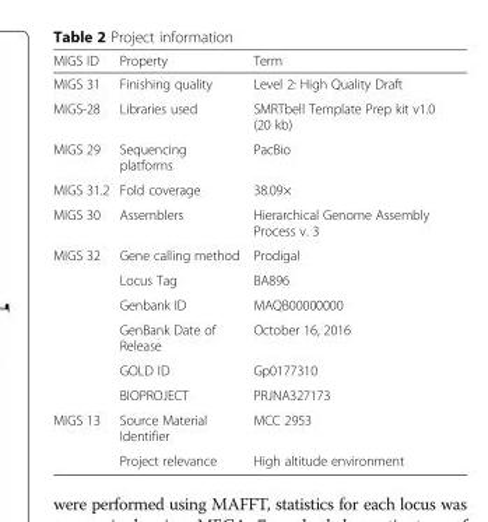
<table><thead><tr><td>MIGS ID</td><td>Property</td><td>Term</td></tr></thead><tbody><tr><td>MIGS 31</td><td>Finishing quality</td><td>Level 2: High Quality Draft</td></tr><tr><td>MIGS-28</td><td>Libraries used</td><td>SMRTbell Template Prep kit v1.0 (20 kb)</td></tr><tr><td>MIGS 29</td><td>Sequencing platforms</td><td>PacBio</td></tr><tr><td>MIGS 31.2</td><td>Fold coverage</td><td>38.09×</td></tr><tr><td>MIGS 30</td><td>Assemblers</td><td>Hierarchical Genome Assembly Process v. 3</td></tr><tr><td rowspan="6">MIGS 32</td><td>Gene calling method</td><td>Prodigal</td></tr><tr><td>Locus Tag</td><td>BA896</td></tr><tr><td>Genbank ID</td><td>MAQB00000000</td></tr><tr><td>GenBank Date of Release</td><td>October 16, 2016</td></tr><tr><td>GOLD ID</td><td>Gp0177310</td></tr><tr><td>BIOPROJECT</td><td>PRJNA327173</td></tr><tr><td rowspan="2">MIGS 13</td><td>Source Material Identifier</td><td>MCC 2953</td></tr><tr><td>Project relevance</td><td>High altitude environment</td></tr></tbody></table>